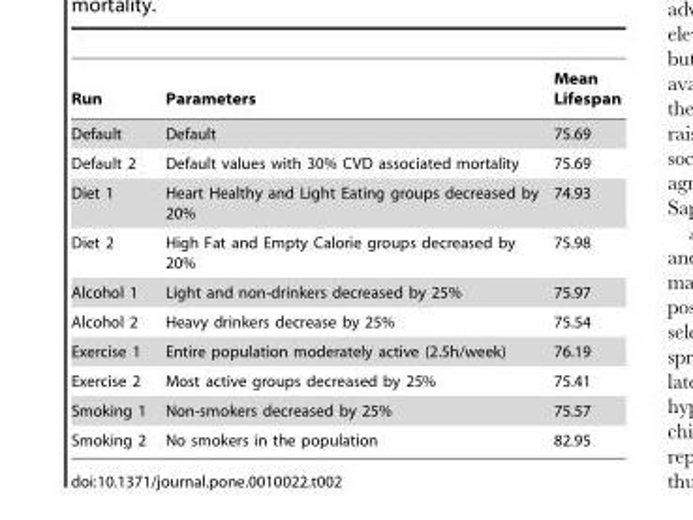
<table><thead><tr><td>Run</td><td>Parameters</td><td>Mean Lifespan</td></tr></thead><tbody><tr><td>Default</td><td>Default</td><td>75.69</td></tr><tr><td>Default 2</td><td>Default values with 30% CVD associated mortality</td><td>75.69</td></tr><tr><td>Diet 1</td><td>Heart Healthy and Light Eating groups decreased by 20%</td><td>74.93</td></tr><tr><td>Diet 2</td><td>High Fat and Empty Calorie groups decreased by 20%</td><td>75.98</td></tr><tr><td>Alcohol 1</td><td>Light and non-drinkers decreased by 25%</td><td>75.97</td></tr><tr><td>Alcohol 2</td><td>Heavy drinkers decrease by 25%</td><td>75.54</td></tr><tr><td>Exercise 1</td><td>Entire population moderately active (2.5h/week)</td><td>76.19</td></tr><tr><td>Exercise 2</td><td>Most active groups decreased by 25%</td><td>75.41</td></tr><tr><td>Smoking 1</td><td>Non-smokers decreased by 25%</td><td>75.57</td></tr><tr><td>Smoking 2</td><td>No smokers in the population</td><td>82.95</td></tr></tbody></table>